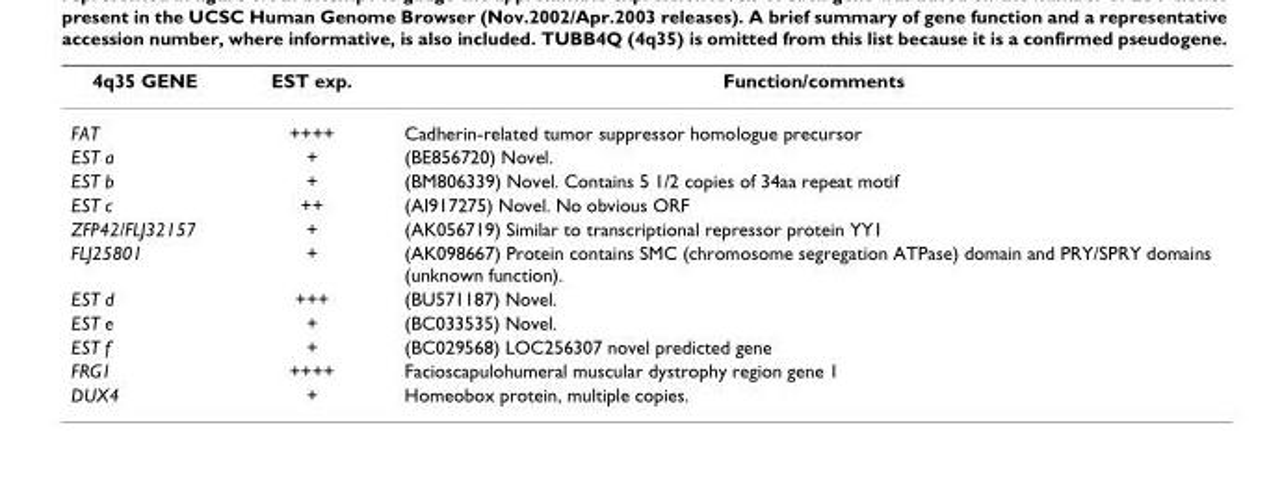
<table><thead><tr><td>4q35 GENE</td><td>EST exp.</td><td>Function/comments</td></tr></thead><tbody><tr><td>FAT</td><td>++++</td><td>Cadherin-related tumor suppressor homologue precursor</td></tr><tr><td>EST a</td><td>+</td><td>(BE856720) Novel.</td></tr><tr><td>EST b</td><td>+</td><td>(BM806339) Novel. Contains 5 1/2 copies of 34aa repeat motif</td></tr><tr><td>EST c</td><td>++</td><td>(AI917275) Novel. No obvious ORF</td></tr><tr><td>ZFP42/FLJ32157</td><td>+</td><td>(AK056719) Similar to transcriptional repressor protein YY1</td></tr><tr><td>FLJ25801</td><td>+</td><td>(AK098667) Protein contains SMC (chromosome segregation ATPase) domain and PRY/SPRY domains (unknown function).</td></tr><tr><td>EST d</td><td>+++</td><td>(BU571187) Novel.</td></tr><tr><td>EST e</td><td>+</td><td>(BC033535) Novel.</td></tr><tr><td>EST f</td><td>+</td><td>(BC029568) LOC256307 novel predicted gene</td></tr><tr><td>FRG1</td><td>++++</td><td>Facioscapulohumeral muscular dystrophy region gene 1</td></tr><tr><td>DUX4</td><td>+</td><td>Homeobox protein, multiple copies.</td></tr></tbody></table>